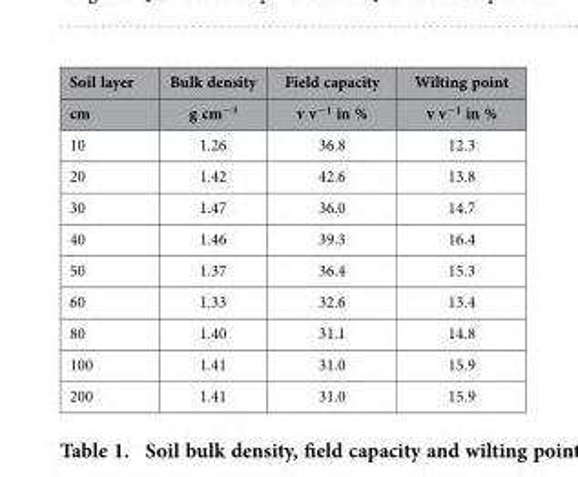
<table><thead><tr><td rowspan="2">Soil layer cm</td><td rowspan="2">Bulk density g cm<sup>−3</sup></td><td rowspan="2">Field capacity v v<sup>−1</sup> in %</td><td rowspan="2">Wilting point v v<sup>−1</sup> in %</td></tr><tr></tr></thead><tbody><tr><td>10</td><td>1.26</td><td>36.8</td><td>12.3</td></tr><tr><td>20</td><td>1.42</td><td>42.6</td><td>13.8</td></tr><tr><td>30</td><td>1.47</td><td>36.0</td><td>14.7</td></tr><tr><td>40</td><td>1.46</td><td>39.3</td><td>16.4</td></tr><tr><td>50</td><td>1.37</td><td>36.4</td><td>15.3</td></tr><tr><td>60</td><td>1.33</td><td>32.6</td><td>13.4</td></tr><tr><td>80</td><td>1.40</td><td>31.1</td><td>14.8</td></tr><tr><td>100</td><td>1.41</td><td>31.0</td><td>15.9</td></tr><tr><td>200</td><td>1.41</td><td>31.0</td><td>15.9</td></tr></tbody></table>